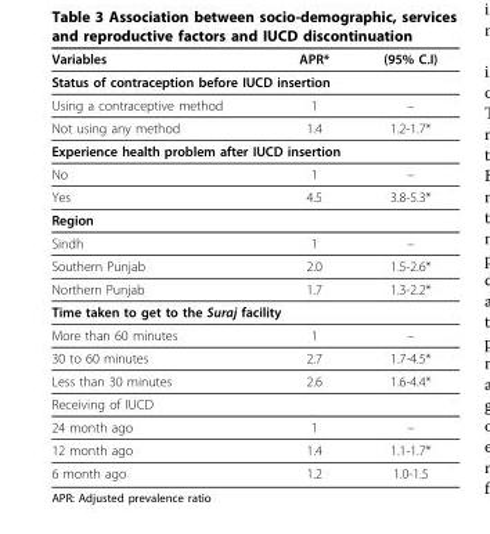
<table><thead><tr><td>Variables</td><td>APR*</td><td>(95% C.I)</td></tr></thead><tbody><tr><td colspan="3">Status of contraception before IUCD insertion</td></tr><tr><td>Using a contraceptive method</td><td>1</td><td>–</td></tr><tr><td>Not using any method</td><td>1.4</td><td>1.2-1.7*</td></tr><tr><td colspan="3">Experience health problem after IUCD insertion</td></tr><tr><td>No</td><td>1</td><td>–</td></tr><tr><td>Yes</td><td>4.5</td><td>3.8-5.3*</td></tr><tr><td colspan="3">Region</td></tr><tr><td>Sindh</td><td>1</td><td>–</td></tr><tr><td>Southern Punjab</td><td>2.0</td><td>1.5-2.6*</td></tr><tr><td>Northern Punjab</td><td>1.7</td><td>1.3-2.2*</td></tr><tr><td colspan="3">Time taken to get to the Suraj facility</td></tr><tr><td>More than 60 minutes</td><td>1</td><td>–</td></tr><tr><td>30 to 60 minutes</td><td>2.7</td><td>1.7-4.5*</td></tr><tr><td>Less than 30 minutes</td><td>2.6</td><td>1.6-4.4*</td></tr><tr><td colspan="3">Receiving of IUCD</td></tr><tr><td>24 month ago</td><td>1</td><td>–</td></tr><tr><td>12 month ago</td><td>1.4</td><td>1.1-1.7*</td></tr><tr><td>6 month ago</td><td>1.2</td><td>1.0-1.5</td></tr></tbody></table>